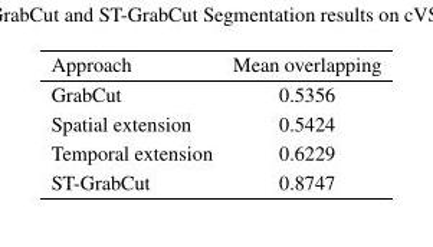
<table><thead><tr><td>Approach</td><td>Mean overlapping</td></tr></thead><tbody><tr><td>GrabCut</td><td>0.5356</td></tr><tr><td>Spatial extension</td><td>0.5424</td></tr><tr><td>Temporal extension</td><td>0.6229</td></tr><tr><td>ST-GrabCut</td><td>0.8747</td></tr></tbody></table>